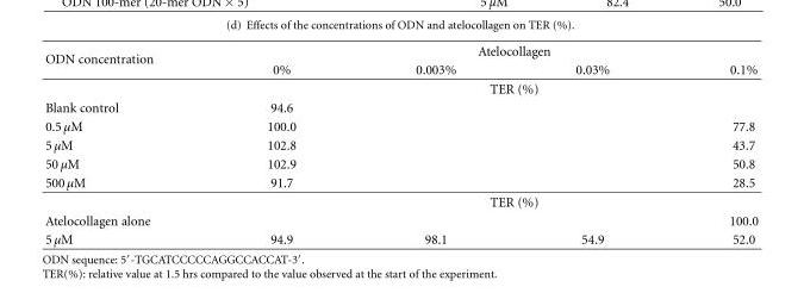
<table><thead><tr><td rowspan="2">ODN concentration</td><td colspan="4">Atelocollagen</td></tr><tr><td>0%</td><td>0.003%</td><td>0.03%</td><td>0.1%</td></tr></thead><tbody><tr><td></td><td colspan="4">TER (%)</td></tr><tr><td>Blank control</td><td>94.6</td><td></td><td></td><td></td></tr><tr><td>0.5 μM</td><td>100.0</td><td></td><td></td><td>77.8</td></tr><tr><td>5 μM</td><td>102.8</td><td></td><td></td><td>43.7</td></tr><tr><td>50 μM</td><td>102.9</td><td></td><td></td><td>50.8</td></tr><tr><td rowspan="2">500 μM</td><td>91.7</td><td></td><td></td><td>28.5</td></tr><tr><td colspan="4">TER (%)</td></tr><tr><td>Atelocollagen alone</td><td></td><td></td><td></td><td>100.0</td></tr><tr><td>5 μM</td><td>94.9</td><td>98.1</td><td>54.9</td><td>52.0</td></tr></tbody></table>